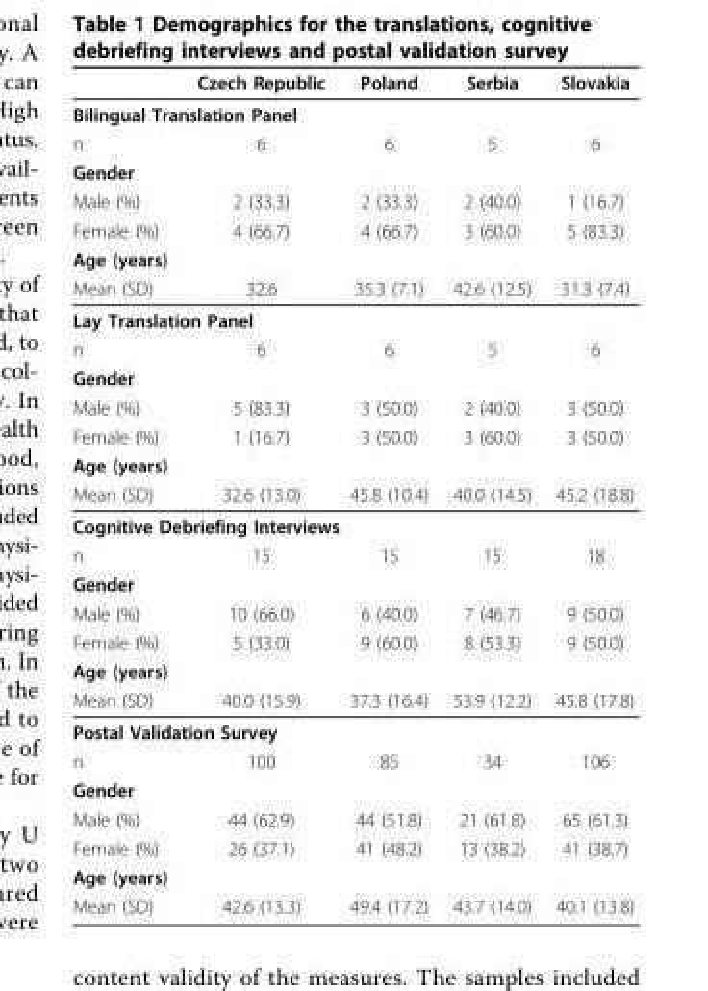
<table><thead><tr><td></td><td>Czech Republic</td><td>Poland</td><td>Serbia</td><td>Slovakia</td></tr></thead><tbody><tr><td colspan="5">Bilingual Translation Panel</td></tr><tr><td>n</td><td>6</td><td>6</td><td>5</td><td>6</td></tr><tr><td colspan="5">Gender</td></tr><tr><td>Male (%)</td><td>2 (33.3)</td><td>2 (33.3)</td><td>2 (40.0)</td><td>1 (16.7)</td></tr><tr><td>Female (%)</td><td>4 (66.7)</td><td>4 (66.7)</td><td>3 (60.0)</td><td>5 (83.3)</td></tr><tr><td colspan="5">Age (years)</td></tr><tr><td>Mean (SD)</td><td>32.6</td><td>35.3 (7.1)</td><td>42.6 (12.5)</td><td>31.3 (7.4)</td></tr><tr><td colspan="5">Lay Translation Panel</td></tr><tr><td>n</td><td>6</td><td>6</td><td>5</td><td>6</td></tr><tr><td colspan="5">Gender</td></tr><tr><td>Male (%)</td><td>5 (83.3)</td><td>3 (50.0)</td><td>2 (40.0)</td><td>3 (50.0)</td></tr><tr><td>Female (%)</td><td>1 (16.7)</td><td>3 (50.0)</td><td>3 (60.0)</td><td>3 (50.0)</td></tr><tr><td colspan="5">Age (years)</td></tr><tr><td>Mean (SD)</td><td>32.6 (13.0)</td><td>45.8 (10.4)</td><td>40.0 (14.5)</td><td>45.2 (18.8)</td></tr><tr><td colspan="5">Cognitive Debriefing Interviews</td></tr><tr><td>n</td><td>15</td><td>15</td><td>15</td><td>18</td></tr><tr><td colspan="5">Gender</td></tr><tr><td>Male (%)</td><td>10 (66.0)</td><td>6 (40.0)</td><td>7 (46.7)</td><td>9 (50.0)</td></tr><tr><td>Female (%)</td><td>5 (33.0)</td><td>9 (60.0)</td><td>8 (53.3)</td><td>9 (50.0)</td></tr><tr><td colspan="5">Age (years)</td></tr><tr><td>Mean (SD)</td><td>40.0 (15.9)</td><td>37.3 (16.4)</td><td>53.9 (12.2)</td><td>45.8 (17.8)</td></tr><tr><td colspan="5">Postal Validation Survey</td></tr><tr><td>n</td><td>100</td><td>85</td><td>34</td><td>106</td></tr><tr><td colspan="5">Gender</td></tr><tr><td>Male (%)</td><td>44 (62.9)</td><td>44 (51.8)</td><td>21 (61.8)</td><td>65 (61.3)</td></tr><tr><td>Female (%)</td><td>26 (37.1)</td><td>41 (48.2)</td><td>13 (38.2)</td><td>41 (38.7)</td></tr><tr><td colspan="5">Age (years)</td></tr><tr><td>Mean (SD)</td><td>42.6 (13.3)</td><td>49.4 (17.2)</td><td>43.7 (14.0)</td><td>40.1 (13.8)</td></tr></tbody></table>